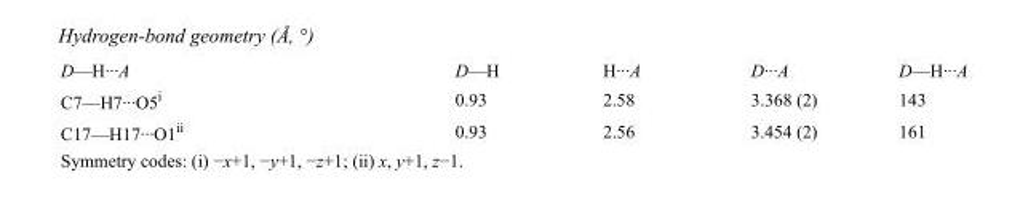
<table><tbody><tr><td>D—H···A</td><td>D—H</td><td>H···A</td><td>D···A</td><td>D—H···A</td></tr><tr><td>C7—H7···O5<sup>i</sup></td><td>0.93</td><td>2.58</td><td>3.368 (2)</td><td>143</td></tr><tr><td>C17—H17···O1<sup>ii</sup></td><td>0.93</td><td>2.56</td><td>3.454 (2)</td><td>161</td></tr></tbody></table>